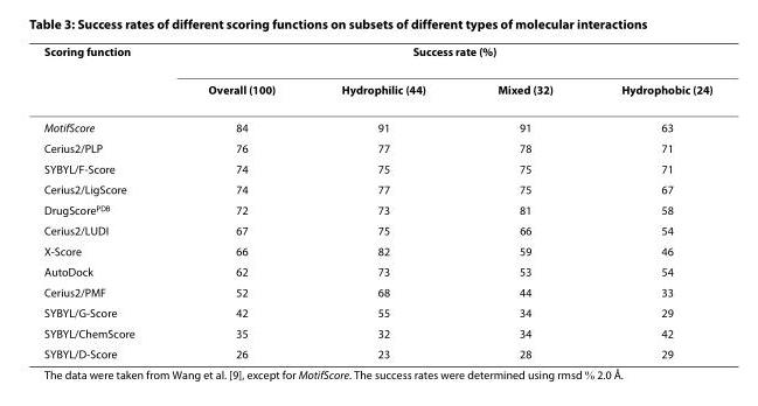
<table><thead><tr><td rowspan="2">Scoring function</td><td colspan="4">Success rate (%)</td></tr><tr><td>Overall (100)</td><td>Hydrophilic (44)</td><td>Mixed (32)</td><td>Hydrophobic (24)</td></tr></thead><tbody><tr><td>MotifScore</td><td>84</td><td>91</td><td>91</td><td>63</td></tr><tr><td>Cerius2/PLP</td><td>76</td><td>77</td><td>78</td><td>71</td></tr><tr><td>SYBYL/F-Score</td><td>74</td><td>75</td><td>75</td><td>71</td></tr><tr><td>Cerius2/LigScore</td><td>74</td><td>77</td><td>75</td><td>67</td></tr><tr><td>DrugScore<sup>PDB</sup></td><td>72</td><td>73</td><td>81</td><td>58</td></tr><tr><td>Cerius2/LUDI</td><td>67</td><td>75</td><td>66</td><td>54</td></tr><tr><td>X-Score</td><td>66</td><td>82</td><td>59</td><td>46</td></tr><tr><td>AutoDock</td><td>62</td><td>73</td><td>53</td><td>54</td></tr><tr><td>Cerius2/PMF</td><td>52</td><td>68</td><td>44</td><td>33</td></tr><tr><td>SYBYL/G-Score</td><td>42</td><td>55</td><td>34</td><td>29</td></tr><tr><td>SYBYL/ChemScore</td><td>35</td><td>32</td><td>34</td><td>42</td></tr><tr><td>SYBYL/D-Score</td><td>26</td><td>23</td><td>28</td><td>29</td></tr></tbody></table>